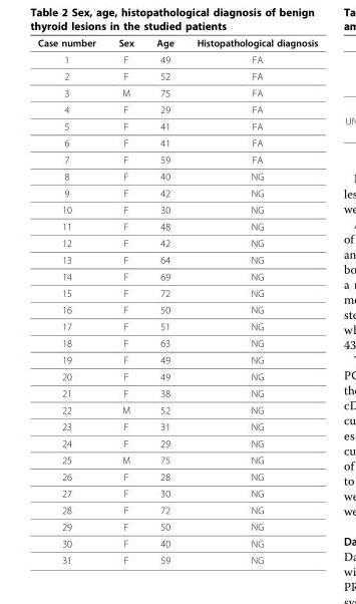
<table><thead><tr><td>Case number</td><td>Sex</td><td>Age</td><td>Histopathological diagnosis</td></tr></thead><tbody><tr><td>1</td><td>F</td><td>49</td><td>FA</td></tr><tr><td>2</td><td>F</td><td>52</td><td>FA</td></tr><tr><td>3</td><td>M</td><td>75</td><td>FA</td></tr><tr><td>4</td><td>F</td><td>29</td><td>FA</td></tr><tr><td>5</td><td>F</td><td>41</td><td>FA</td></tr><tr><td>6</td><td>F</td><td>41</td><td>FA</td></tr><tr><td>7</td><td>F</td><td>59</td><td>FA</td></tr><tr><td>8</td><td>F</td><td>40</td><td>NG</td></tr><tr><td>9</td><td>F</td><td>42</td><td>NG</td></tr><tr><td>10</td><td>F</td><td>30</td><td>NG</td></tr><tr><td>11</td><td>F</td><td>48</td><td>NG</td></tr><tr><td>12</td><td>F</td><td>42</td><td>NG</td></tr><tr><td>13</td><td>F</td><td>64</td><td>NG</td></tr><tr><td>14</td><td>F</td><td>69</td><td>NG</td></tr><tr><td>15</td><td>F</td><td>72</td><td>NG</td></tr><tr><td>16</td><td>F</td><td>50</td><td>NG</td></tr><tr><td>17</td><td>F</td><td>51</td><td>NG</td></tr><tr><td>18</td><td>F</td><td>63</td><td>NG</td></tr><tr><td>19</td><td>F</td><td>49</td><td>NG</td></tr><tr><td>20</td><td>F</td><td>49</td><td>NG</td></tr><tr><td>21</td><td>F</td><td>38</td><td>NG</td></tr><tr><td>22</td><td>M</td><td>52</td><td>NG</td></tr><tr><td>23</td><td>F</td><td>31</td><td>NG</td></tr><tr><td>24</td><td>F</td><td>29</td><td>NG</td></tr><tr><td>25</td><td>M</td><td>75</td><td>NG</td></tr><tr><td>26</td><td>F</td><td>28</td><td>NG</td></tr><tr><td>27</td><td>F</td><td>30</td><td>NG</td></tr><tr><td>28</td><td>F</td><td>72</td><td>NG</td></tr><tr><td>29</td><td>F</td><td>50</td><td>NG</td></tr><tr><td>30</td><td>F</td><td>40</td><td>NG</td></tr><tr><td>31</td><td>F</td><td>59</td><td>NG</td></tr></tbody></table>